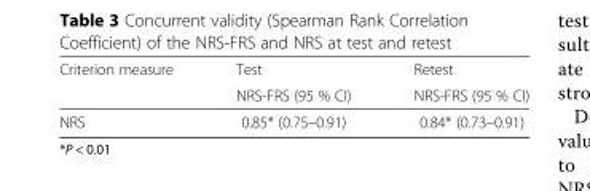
<table><thead><tr><td rowspan="2">Criterion measure</td><td rowspan="2">Test NRS-FRS (95 % CI)</td><td rowspan="2">Retest NRS-FRS (95 % CI)</td></tr><tr></tr></thead><tbody><tr><td>NRS</td><td>0.85* (0.75–0.91)</td><td>0.84* (0.73–0.91)</td></tr></tbody></table>